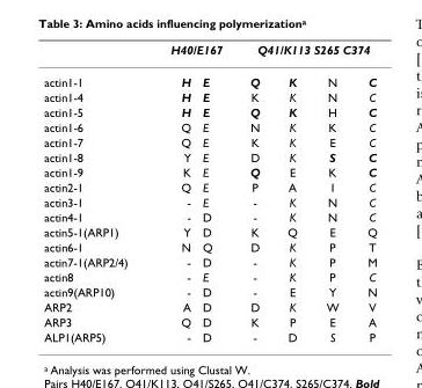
<table><thead><tr><td rowspan="2">actin1-1</td><td colspan="2">H40/E167</td><td colspan="4">Q41/K113 S265 C374</td></tr><tr><td>H</td><td>E</td><td>Q</td><td>K</td><td>N</td><td>C</td></tr></thead><tbody><tr><td>actin1-4</td><td>H</td><td>E</td><td>K</td><td>K</td><td>N</td><td>C</td></tr><tr><td>actin1-5</td><td>H</td><td>E</td><td>Q</td><td>K</td><td>H</td><td>C</td></tr><tr><td>actin1-6</td><td>Q</td><td>E</td><td>N</td><td>K</td><td>K</td><td>C</td></tr><tr><td>actin1-7</td><td>Q</td><td>E</td><td>K</td><td>K</td><td>E</td><td>C</td></tr><tr><td>actin1-8</td><td>Y</td><td>E</td><td>D</td><td>K</td><td>S</td><td>C</td></tr><tr><td>actin1-9</td><td>K</td><td>E</td><td>Q</td><td>E</td><td>K</td><td>C</td></tr><tr><td>actin2-1</td><td>Q</td><td>E</td><td>P</td><td>A</td><td>I</td><td>C</td></tr><tr><td>actin3-1</td><td>-</td><td>E</td><td>-</td><td>K</td><td>N</td><td>C</td></tr><tr><td>actin4-1</td><td>-</td><td>D</td><td>-</td><td>K</td><td>N</td><td>C</td></tr><tr><td>actin5-1(ARP1)</td><td>Y</td><td>D</td><td>K</td><td>Q</td><td>E</td><td>Q</td></tr><tr><td>actin6-1</td><td>N</td><td>Q</td><td>D</td><td>K</td><td>P</td><td>T</td></tr><tr><td>actin7-1(ARP2/4)</td><td>-</td><td>D</td><td>-</td><td>K</td><td>P</td><td>M</td></tr><tr><td>actin8</td><td>-</td><td>E</td><td>-</td><td>K</td><td>P</td><td>C</td></tr><tr><td>actin9(ARP10)</td><td>-</td><td>D</td><td>-</td><td>E</td><td>Y</td><td>N</td></tr><tr><td>ARP2</td><td>A</td><td>D</td><td>D</td><td>K</td><td>W</td><td>V</td></tr><tr><td>ARP3</td><td>Q</td><td>D</td><td>K</td><td>P</td><td>E</td><td>A</td></tr><tr><td>ALP1(ARP5)</td><td>-</td><td>D</td><td>-</td><td>D</td><td>S</td><td>P</td></tr></tbody></table>